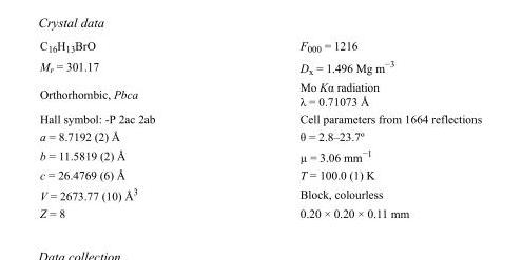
<table><tbody><tr><td>C<sub>16</sub>H<sub>13</sub>BrO</td><td>F<sub>000</sub> = 1216</td></tr><tr><td>M<sub>r</sub> = 301.17</td><td>D<sub>x</sub> = 1.496 Mg m<sup>−3</sup></td></tr><tr><td>Orthorhombic, Pbca</td><td>Mo Kα radiation λ = 0.71073 Å</td></tr><tr><td>Hall symbol: -P 2ac 2ab</td><td>Cell parameters from 1664 reflections</td></tr><tr><td>a = 8.7192 (2) Å</td><td>θ = 2.8–23.7º</td></tr><tr><td>b = 11.5819 (2) Å</td><td>µ = 3.06 mm<sup>−1</sup></td></tr><tr><td>c = 26.4769 (6) Å</td><td>T = 100.0 (1) K</td></tr><tr><td>V = 2673.77 (10) Å<sup>3</sup></td><td>Block, colourless</td></tr><tr><td>Z = 8</td><td>0.20 × 0.20 × 0.11 mm</td></tr></tbody></table>